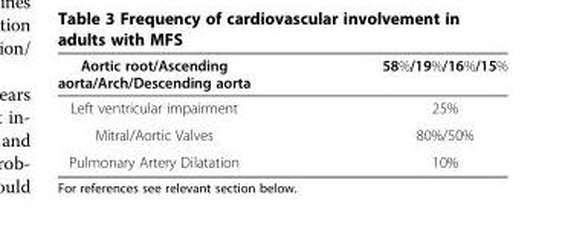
<table><thead><tr><td>Aortic root/Ascending aorta/Arch/Descending aorta</td><td>58%/19%/16%/15%</td></tr></thead><tbody><tr><td>Left ventricular impairment</td><td>25%</td></tr><tr><td>Mitral/Aortic Valves</td><td>80%/50%</td></tr><tr><td>Pulmonary Artery Dilatation</td><td>10%</td></tr></tbody></table>